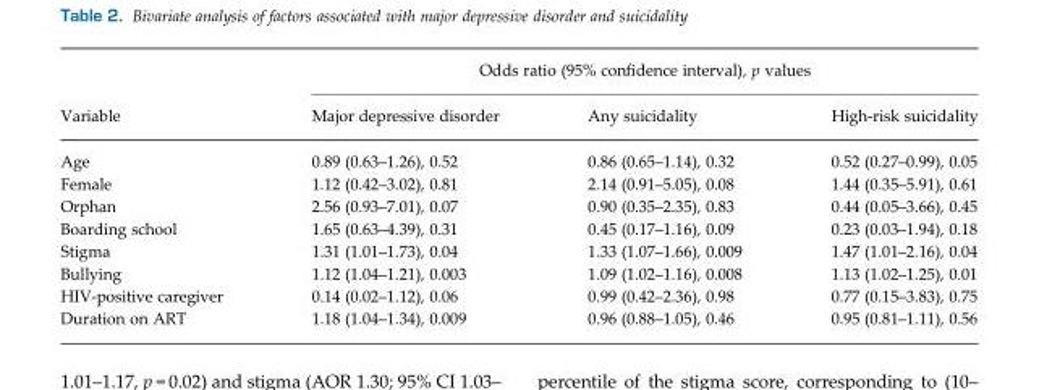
<table><thead><tr><td rowspan="2">Variable</td><td colspan="3">Odds ratio (95% confidence interval), p values</td></tr><tr><td>Major depressive disorder</td><td>Any suicidality</td><td>High-risk suicidality</td></tr></thead><tbody><tr><td>Age</td><td>0.89 (0.63–1.26), 0.52</td><td>0.86 (0.65–1.14), 0.32</td><td>0.52 (0.27–0.99), 0.05</td></tr><tr><td>Female</td><td>1.12 (0.42–3.02), 0.81</td><td>2.14 (0.91–5.05), 0.08</td><td>1.44 (0.35–5.91), 0.61</td></tr><tr><td>Orphan</td><td>2.56 (0.93–7.01), 0.07</td><td>0.90 (0.35–2.35), 0.83</td><td>0.44 (0.05–3.66), 0.45</td></tr><tr><td>Boarding school</td><td>1.65 (0.63–4.39), 0.31</td><td>0.45 (0.17–1.16), 0.09</td><td>0.23 (0.03–1.94), 0.18</td></tr><tr><td>Stigma</td><td>1.31 (1.01–1.73), 0.04</td><td>1.33 (1.07–1.66), 0.009</td><td>1.47 (1.01–2.16), 0.04</td></tr><tr><td>Bullying</td><td>1.12 (1.04–1.21), 0.003</td><td>1.09 (1.02–1.16), 0.008</td><td>1.13 (1.02–1.25), 0.01</td></tr><tr><td>HIV-positive caregiver</td><td>0.14 (0.02–1.12), 0.06</td><td>0.99 (0.42–2.36), 0.98</td><td>0.77 (0.15–3.83), 0.75</td></tr><tr><td>Duration on ART</td><td>1.18 (1.04–1.34), 0.009</td><td>0.96 (0.88–1.05), 0.46</td><td>0.95 (0.81–1.11), 0.56</td></tr></tbody></table>